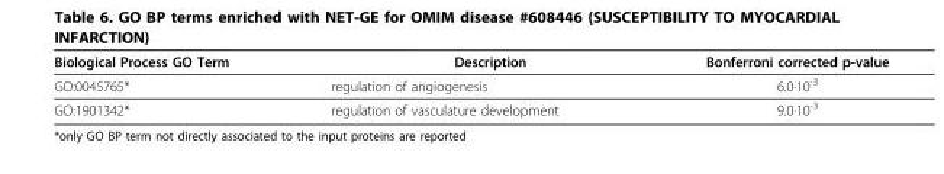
<table><thead><tr><td>Biological Process GO Term</td><td>Description</td><td>Bonferroni corrected p-value</td></tr></thead><tbody><tr><td>GO:0045765*</td><td>regulation of angiogenesis</td><td>6.0·10<sup>-3</sup></td></tr><tr><td>GO:1901342*</td><td>regulation of vasculature development</td><td>9.0·10<sup>-3</sup></td></tr></tbody></table>